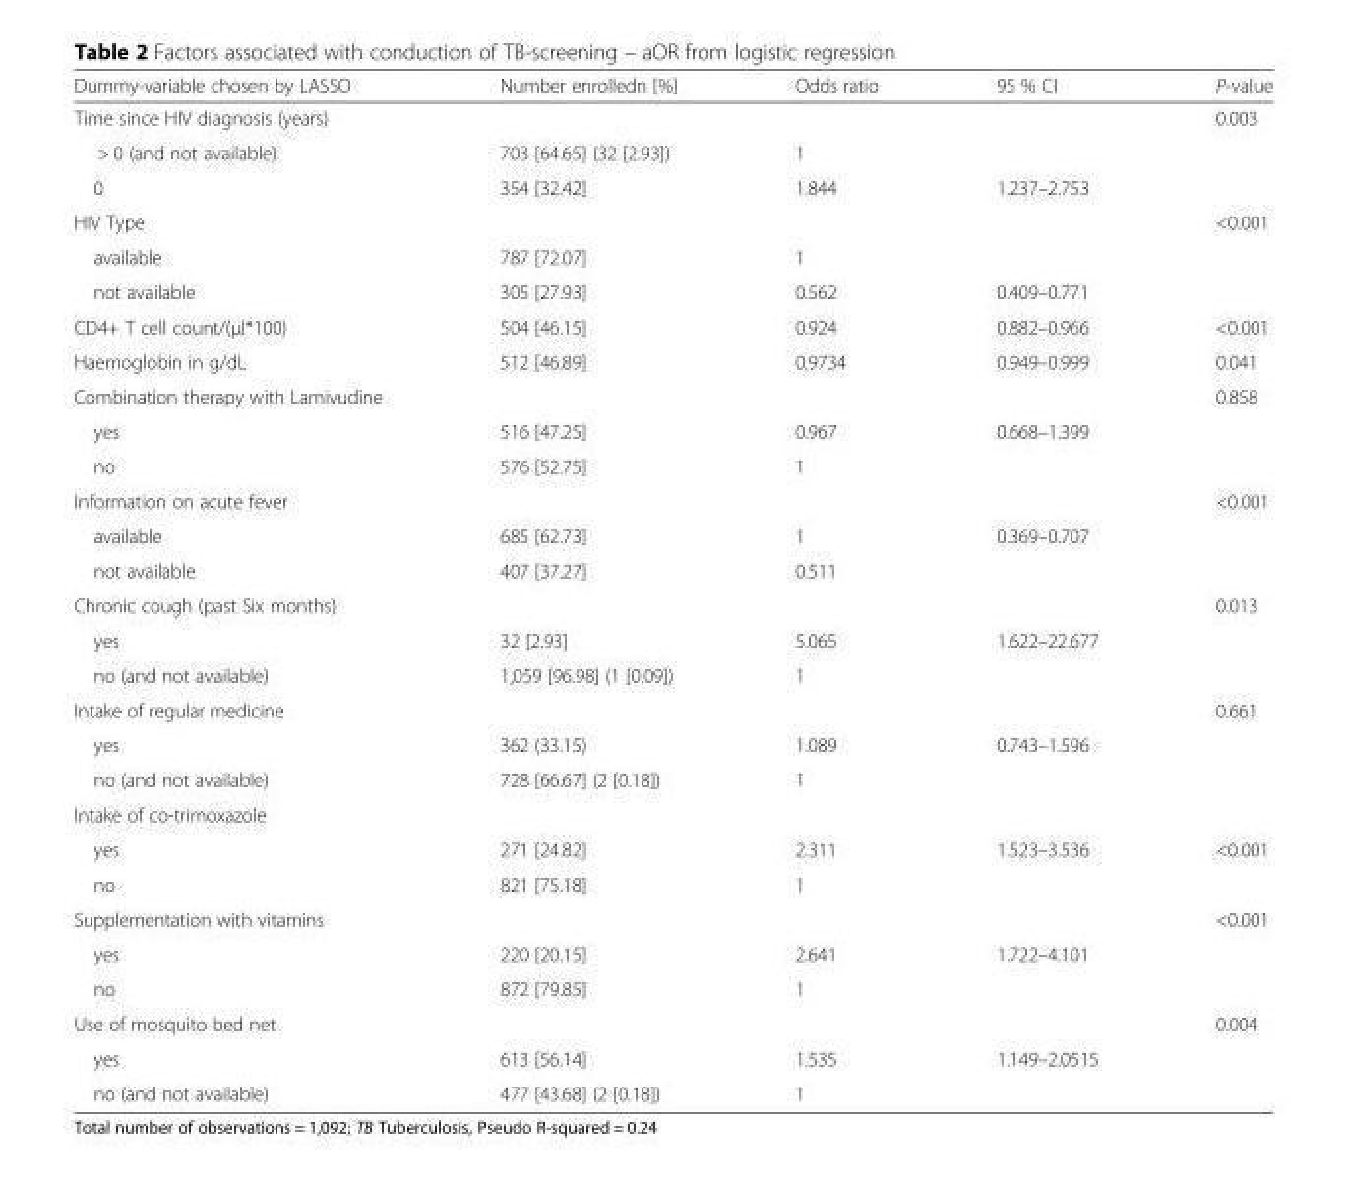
<table><thead><tr><td>Dummy-variable chosen by LASSO</td><td>Number enrolledn [%]</td><td>Odds ratio</td><td>95 % CI</td><td>P-value</td></tr></thead><tbody><tr><td>Time since HIV diagnosis (years)</td><td></td><td></td><td></td><td>0.003</td></tr><tr><td>&gt; 0 (and not available)</td><td>703 [64.65] (32 [2.93])</td><td>1</td><td></td><td></td></tr><tr><td>0</td><td>354 [32.42]</td><td>1.844</td><td>1.237–2.753</td><td></td></tr><tr><td>HIV Type</td><td></td><td></td><td></td><td>&lt;0.001</td></tr><tr><td>available</td><td>787 [72.07]</td><td>1</td><td></td><td></td></tr><tr><td>not available</td><td>305 [27.93]</td><td>0.562</td><td>0.409–0.771</td><td></td></tr><tr><td>CD4+ T cell count/(μl*100)</td><td>504 [46.15]</td><td>0.924</td><td>0.882–0.966</td><td>&lt;0.001</td></tr><tr><td>Haemoglobin in g/dL</td><td>512 [46.89]</td><td>0.9734</td><td>0.949–0.999</td><td>0.041</td></tr><tr><td>Combination therapy with Lamivudine</td><td></td><td></td><td></td><td>0.858</td></tr><tr><td>yes</td><td>516 [47.25]</td><td>0.967</td><td>0.668–1.399</td><td></td></tr><tr><td>no</td><td>576 [52.75]</td><td>1</td><td></td><td></td></tr><tr><td>Information on acute fever</td><td></td><td></td><td></td><td>&lt;0.001</td></tr><tr><td>available</td><td>685 [62.73]</td><td>1</td><td>0.369–0.707</td><td></td></tr><tr><td>not available</td><td>407 [37.27]</td><td>0.511</td><td></td><td></td></tr><tr><td>Chronic cough (past Six months)</td><td></td><td></td><td></td><td>0.013</td></tr><tr><td>yes</td><td>32 [2.93]</td><td>5.065</td><td>1.622–22.677</td><td></td></tr><tr><td>no (and not available)</td><td>1,059 [96.98] (1 [0.09])</td><td>1</td><td></td><td></td></tr><tr><td>Intake of regular medicine</td><td></td><td></td><td></td><td>0.661</td></tr><tr><td>yes</td><td>362 (33.15)</td><td>1.089</td><td>0.743–1.596</td><td></td></tr><tr><td>no (and not available)</td><td>728 [66.67] (2 [0.18])</td><td>1</td><td></td><td></td></tr><tr><td colspan="5">Intake of co-trimoxazole</td></tr><tr><td>yes</td><td>271 [24.82]</td><td>2.311</td><td>1.523–3.536</td><td>&lt;0.001</td></tr><tr><td>no</td><td>821 [75.18]</td><td>1</td><td></td><td></td></tr><tr><td>Supplementation with vitamins</td><td></td><td></td><td></td><td>&lt;0.001</td></tr><tr><td>yes</td><td>220 [20.15]</td><td>2.641</td><td>1.722–4.101</td><td></td></tr><tr><td>no</td><td>872 [79.85]</td><td>1</td><td></td><td></td></tr><tr><td>Use of mosquito bed net</td><td></td><td></td><td></td><td>0.004</td></tr><tr><td>yes</td><td>613 [56.14]</td><td>1.535</td><td>1.149–2.0515</td><td></td></tr><tr><td>no (and not available)</td><td>477 [43.68] (2 [0.18])</td><td>1</td><td></td><td></td></tr></tbody></table>